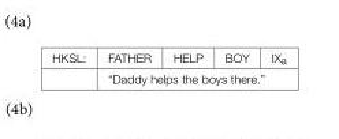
<table><tbody><tr><td rowspan="2">HKSL:</td><td>FATHER</td><td>HELP</td><td>BOY</td><td>IX<sub>a</sub></td></tr><tr><td colspan="4">“Daddy helps the boys there.”</td></tr></tbody></table>